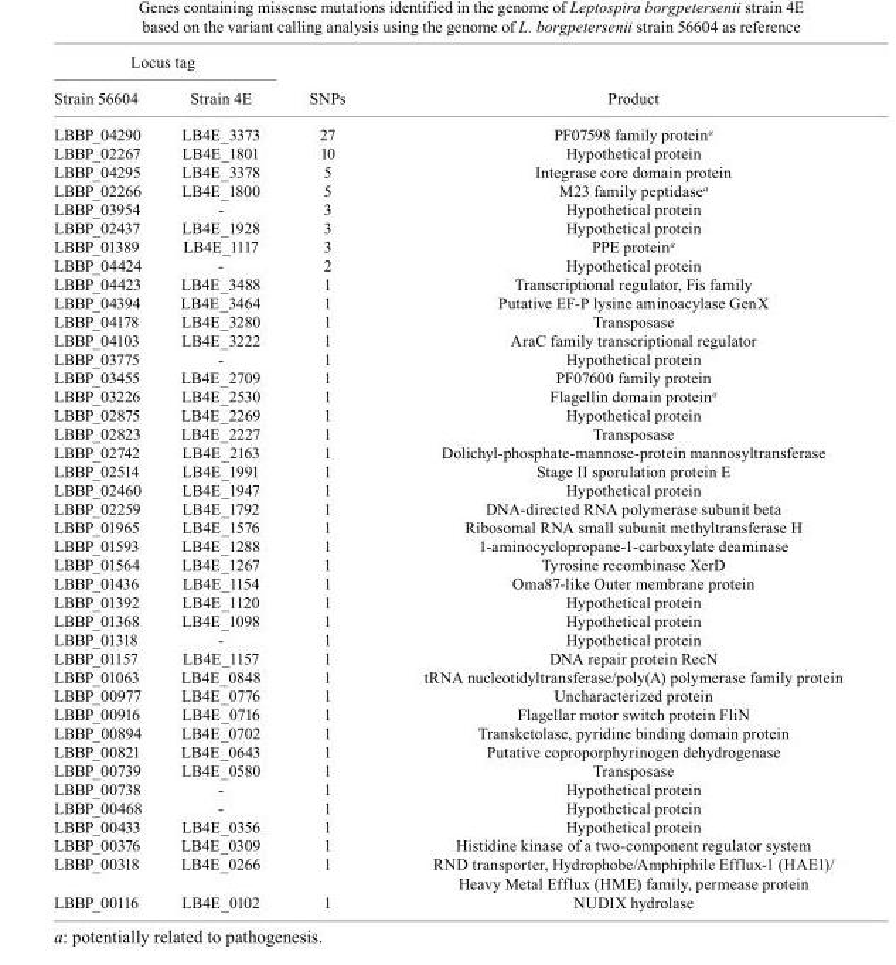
<table><thead><tr><td colspan="2">Locus tag</td><td rowspan="2">SNPs</td><td rowspan="2">Product</td></tr><tr><td>Strain 56604</td><td>Strain 4E</td></tr></thead><tbody><tr><td>LBBP_04290</td><td>LB4E_3373</td><td>27</td><td>PF07598 family protein<sup>a</sup></td></tr><tr><td>LBBP_02267</td><td>LB4E_1801</td><td>10</td><td>Hypothetical protein</td></tr><tr><td>LBBP_04295</td><td>LB4E_3378</td><td>5</td><td>Integrase core domain protein</td></tr><tr><td>LBBP_02266</td><td>LB4E_1800</td><td>5</td><td>M23 family peptidase<sup>a</sup></td></tr><tr><td>LBBP_03954</td><td>-</td><td>3</td><td>Hypothetical protein</td></tr><tr><td>LBBP_02437</td><td>LB4E_1928</td><td>3</td><td>Hypothetical protein</td></tr><tr><td>LBBP_01389</td><td>LB4E_1117</td><td>3</td><td>PPE protein<sup>a</sup></td></tr><tr><td>LBBP_04424</td><td>-</td><td>2</td><td>Hypothetical protein</td></tr><tr><td>LBBP_04423</td><td>LB4E_3488</td><td>1</td><td>Transcriptional regulator, Fis family</td></tr><tr><td>LBBP_04394</td><td>LB4E_3464</td><td>1</td><td>Putative EF-P lysine aminoacylase GenX</td></tr><tr><td>LBBP_04178</td><td>LB4E_3280</td><td>1</td><td>Transposase</td></tr><tr><td>LBBP_04103</td><td>LB4E_3222</td><td>1</td><td>AraC family transcriptional regulator</td></tr><tr><td>LBBP_03775</td><td>-</td><td>1</td><td>Hypothetical protein</td></tr><tr><td>LBBP_03455</td><td>LB4E_2709</td><td>1</td><td>PF07600 family protein</td></tr><tr><td>LBBP_03226</td><td>LB4E_2530</td><td>1</td><td>Flagellin domain protein<sup>a</sup></td></tr><tr><td>LBBP_02875</td><td>LB4E_2269</td><td>1</td><td>Hypothetical protein</td></tr><tr><td>LBBP_02823</td><td>LB4E_2227</td><td>1</td><td>Transposase</td></tr><tr><td>LBBP_02742</td><td>LB4E_2163</td><td>1</td><td>Dolichyl-phosphate-mannose-protein mannosyltransferase</td></tr><tr><td>LBBP_02514</td><td>LB4E_1991</td><td>1</td><td>Stage II sporulation protein E</td></tr><tr><td>LBBP_02460</td><td>LB4E_1947</td><td>1</td><td>Hypothetical protein</td></tr><tr><td>LBBP_02259</td><td>LB4E_1792</td><td>1</td><td>DNA-directed RNA polymerase subunit beta</td></tr><tr><td>LBBP_01965</td><td>LB4E_1576</td><td>1</td><td>Ribosomal RNA small subunit methyltransferase H</td></tr><tr><td>LBBP_01593</td><td>LB4E_1288</td><td>1</td><td>1-aminocyclopropane-1-carboxylate deaminase</td></tr><tr><td>LBBP_01564</td><td>LB4E_1267</td><td>1</td><td>Tyrosine recombinase XerD</td></tr><tr><td>LBBP_01436</td><td>LB4E_1154</td><td>1</td><td>Oma87-like Outer membrane protein</td></tr><tr><td>LBBP_01392</td><td>LB4E_1120</td><td>1</td><td>Hypothetical protein</td></tr><tr><td>LBBP_01368</td><td>LB4E_1098</td><td>1</td><td>Hypothetical protein</td></tr><tr><td>LBBP_01318</td><td>-</td><td>1</td><td>Hypothetical protein</td></tr><tr><td>LBBP_01157</td><td>LB4E_1157</td><td>1</td><td>DNA repair protein RecN</td></tr><tr><td>LBBP_01063</td><td>LB4E_0848</td><td>1</td><td>tRNA nucleotidyltransferase/poly(A) polymerase family protein</td></tr><tr><td>LBBP_00977</td><td>LB4E_0776</td><td>1</td><td>Uncharacterized protein</td></tr><tr><td>LBBP_00916</td><td>LB4E_0716</td><td>1</td><td>Flagellar motor switch protein FliN</td></tr><tr><td>LBBP_00894</td><td>LB4E_0702</td><td>1</td><td>Transketolase, pyridine binding domain protein</td></tr><tr><td>LBBP_00821</td><td>LB4E_0643</td><td>1</td><td>Putative coproporphyrinogen dehydrogenase</td></tr><tr><td>LBBP_00739</td><td>LB4E_0580</td><td>1</td><td>Transposase</td></tr><tr><td>LBBP_00738</td><td>-</td><td>1</td><td>Hypothetical protein</td></tr><tr><td>LBBP_00468</td><td>-</td><td>1</td><td>Hypothetical protein</td></tr><tr><td>LBBP_00433</td><td>LB4E_0356</td><td>1</td><td>Hypothetical protein</td></tr><tr><td>LBBP_00376</td><td>LB4E_0309</td><td>1</td><td>Histidine kinase of a two-component regulator system</td></tr><tr><td>LBBP_00318</td><td>LB4E_0266</td><td>1</td><td>RND transporter, Hydrophobe/Amphiphile Efflux-1 (HAE1)/ Heavy Metal Efflux (HME) family, permease protein</td></tr><tr><td>LBBP_00116</td><td>LB4E_0102</td><td>1</td><td>NUDIX hydrolase</td></tr></tbody></table>